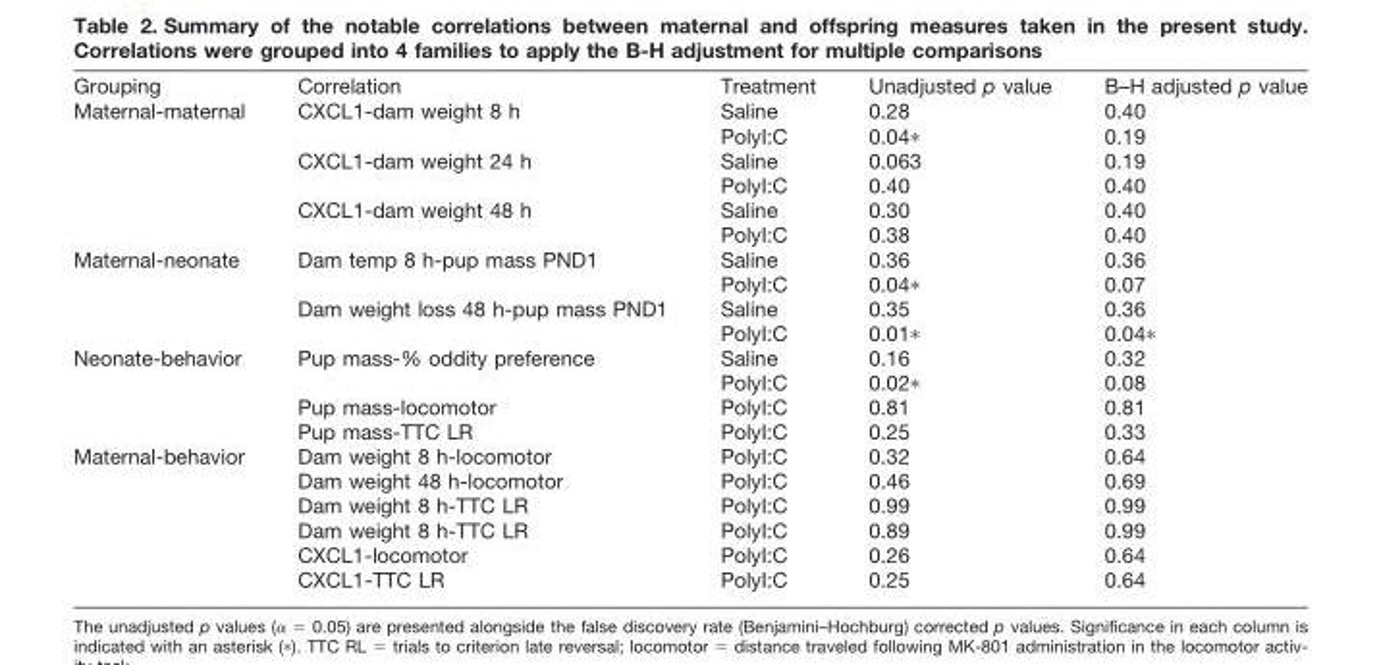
<table><thead><tr><td>Grouping</td><td>Correlation</td><td>Treatment</td><td>Unadjusted p value</td><td>B–H adjusted p value</td></tr></thead><tbody><tr><td rowspan="6">Maternal-maternal</td><td rowspan="2">CXCL1-dam weight 8 h</td><td>Saline</td><td>0.28</td><td>0.40</td></tr><tr><td>PolyI:C</td><td>0.04*</td><td>0.19</td></tr><tr><td rowspan="2">CXCL1-dam weight 24 h</td><td>Saline</td><td>0.063</td><td>0.19</td></tr><tr><td>PolyI:C</td><td>0.40</td><td>0.40</td></tr><tr><td rowspan="2">CXCL1-dam weight 48 h</td><td>Saline</td><td>0.30</td><td>0.40</td></tr><tr><td>PolyI:C</td><td>0.38</td><td>0.40</td></tr><tr><td rowspan="4">Maternal-neonate</td><td rowspan="2">Dam temp 8 h-pup mass PND1</td><td>Saline</td><td>0.36</td><td>0.36</td></tr><tr><td>PolyI:C</td><td>0.04*</td><td>0.07</td></tr><tr><td rowspan="2">Dam weight loss 48 h-pup mass PND1</td><td>Saline</td><td>0.35</td><td>0.36</td></tr><tr><td>PolyI:C</td><td>0.01*</td><td>0.04*</td></tr><tr><td rowspan="4">Neonate-behavior</td><td rowspan="2">Pup mass-% oddity preference</td><td>Saline</td><td>0.16</td><td>0.32</td></tr><tr><td>PolyI:C</td><td>0.02*</td><td>0.08</td></tr><tr><td>Pup mass-locomotor</td><td>PolyI:C</td><td>0.81</td><td>0.81</td></tr><tr><td>Pup mass-TTC LR</td><td>PolyI:C</td><td>0.25</td><td>0.33</td></tr><tr><td rowspan="6">Maternal-behavior</td><td>Dam weight 8 h-locomotor</td><td>PolyI:C</td><td>0.32</td><td>0.64</td></tr><tr><td>Dam weight 48 h-locomotor</td><td>PolyI:C</td><td>0.46</td><td>0.69</td></tr><tr><td>Dam weight 8 h-TTC LR</td><td>PolyI:C</td><td>0.99</td><td>0.99</td></tr><tr><td>Dam weight 8 h-TTC LR</td><td>PolyI:C</td><td>0.89</td><td>0.99</td></tr><tr><td>CXCL1-locomotor</td><td>PolyI:C</td><td>0.26</td><td>0.64</td></tr><tr><td>CXCL1-TTC LR</td><td>PolyI:C</td><td>0.25</td><td>0.64</td></tr></tbody></table>